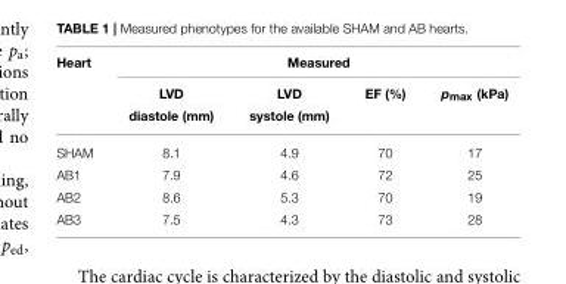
<table><thead><tr><td rowspan="3">Heart</td><td colspan="4">Measured</td></tr><tr><td rowspan="2">LVD diastole (mm)</td><td rowspan="2">LVD systole (mm)</td><td rowspan="2">EF (%)</td><td rowspan="2">p<sub>max</sub> (kPa)</td></tr><tr></tr></thead><tbody><tr><td>SHAM</td><td>8.1</td><td>4.9</td><td>70</td><td>17</td></tr><tr><td>AB1</td><td>7.9</td><td>4.6</td><td>72</td><td>25</td></tr><tr><td>AB2</td><td>8.6</td><td>5.3</td><td>70</td><td>19</td></tr><tr><td>AB3</td><td>7.5</td><td>4.3</td><td>73</td><td>28</td></tr></tbody></table>